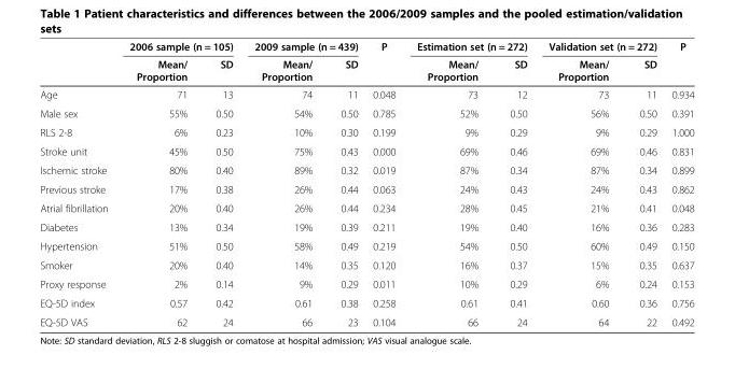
<table><thead><tr><td rowspan="2"></td><td colspan="2">2006 sample (n = 105)</td><td colspan="2">2009 sample (n = 439)</td><td rowspan="2">P</td><td colspan="2">Estimation set (n = 272)</td><td colspan="2">Validation set (n = 272)</td><td rowspan="2">P</td></tr><tr><td>Mean/ Proportion</td><td>SD</td><td>Mean/ Proportion</td><td>SD</td><td>Mean/ Proportion</td><td>SD</td><td>Mean/ Proportion</td><td>SD</td></tr></thead><tbody><tr><td>Age</td><td>71</td><td>13</td><td>74</td><td>11</td><td>0.048</td><td>73</td><td>12</td><td>73</td><td>11</td><td>0.934</td></tr><tr><td>Male sex</td><td>55%</td><td>0.50</td><td>54%</td><td>0.50</td><td>0.785</td><td>52%</td><td>0.50</td><td>56%</td><td>0.50</td><td>0.391</td></tr><tr><td>RLS 2-8</td><td>6%</td><td>0.23</td><td>10%</td><td>0.30</td><td>0.199</td><td>9%</td><td>0.29</td><td>9%</td><td>0.29</td><td>1.000</td></tr><tr><td>Stroke unit</td><td>45%</td><td>0.50</td><td>75%</td><td>0.43</td><td>0.000</td><td>69%</td><td>0.46</td><td>69%</td><td>0.46</td><td>0.831</td></tr><tr><td>Ischemic stroke</td><td>80%</td><td>0.40</td><td>89%</td><td>0.32</td><td>0.019</td><td>87%</td><td>0.34</td><td>87%</td><td>0.34</td><td>0.899</td></tr><tr><td>Previous stroke</td><td>17%</td><td>0.38</td><td>26%</td><td>0.44</td><td>0.063</td><td>24%</td><td>0.43</td><td>24%</td><td>0.43</td><td>0.862</td></tr><tr><td>Atrial fibrillation</td><td>20%</td><td>0.40</td><td>26%</td><td>0.44</td><td>0.234</td><td>28%</td><td>0.45</td><td>21%</td><td>0.41</td><td>0.048</td></tr><tr><td>Diabetes</td><td>13%</td><td>0.34</td><td>19%</td><td>0.39</td><td>0.211</td><td>19%</td><td>0.40</td><td>16%</td><td>0.36</td><td>0.283</td></tr><tr><td>Hypertension</td><td>51%</td><td>0.50</td><td>58%</td><td>0.49</td><td>0.219</td><td>54%</td><td>0.50</td><td>60%</td><td>0.49</td><td>0.150</td></tr><tr><td>Smoker</td><td>20%</td><td>0.40</td><td>14%</td><td>0.35</td><td>0.120</td><td>16%</td><td>0.37</td><td>15%</td><td>0.35</td><td>0.637</td></tr><tr><td>Proxy response</td><td>2%</td><td>0.14</td><td>9%</td><td>0.29</td><td>0.011</td><td>10%</td><td>0.29</td><td>6%</td><td>0.24</td><td>0.153</td></tr><tr><td>EQ-5D index</td><td>0.57</td><td>0.42</td><td>0.61</td><td>0.38</td><td>0.258</td><td>0.61</td><td>0.41</td><td>0.60</td><td>0.36</td><td>0.756</td></tr><tr><td>EQ-5D VAS</td><td>62</td><td>24</td><td>66</td><td>23</td><td>0.104</td><td>66</td><td>24</td><td>64</td><td>22</td><td>0.492</td></tr></tbody></table>